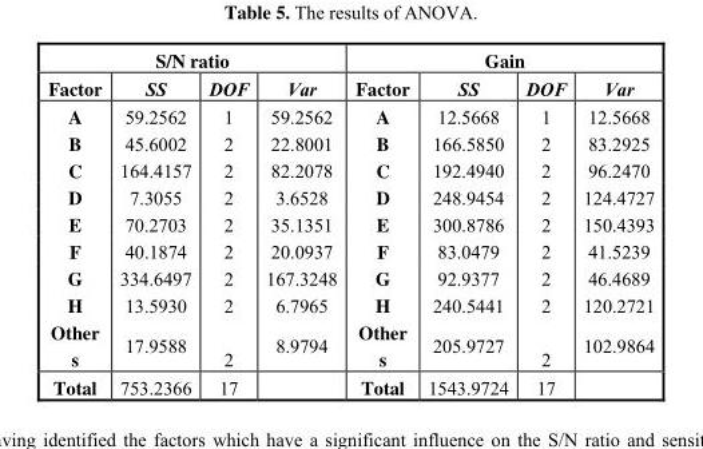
<table><thead><tr><td colspan="4">S/N ratio</td><td colspan="4">Gain</td></tr><tr><td>Factor</td><td>SS</td><td>DOF</td><td>Var</td><td>Factor</td><td>SS</td><td>DOF</td><td>Var</td></tr></thead><tbody><tr><td>A</td><td>59.2562</td><td>1</td><td>59.2562</td><td>A</td><td>12.5668</td><td>1</td><td>12.5668</td></tr><tr><td>B</td><td>45.6002</td><td>2</td><td>22.8001</td><td>B</td><td>166.5850</td><td>2</td><td>83.2925</td></tr><tr><td>C</td><td>164.4157</td><td>2</td><td>82.2078</td><td>C</td><td>192.4940</td><td>2</td><td>96.2470</td></tr><tr><td>D</td><td>7.3055</td><td>2</td><td>3.6528</td><td>D</td><td>248.9454</td><td>2</td><td>124.4727</td></tr><tr><td>E</td><td>70.2703</td><td>2</td><td>35.1351</td><td>E</td><td>300.8786</td><td>2</td><td>150.4393</td></tr><tr><td>F</td><td>40.1874</td><td>2</td><td>20.0937</td><td>F</td><td>83.0479</td><td>2</td><td>41.5239</td></tr><tr><td>G</td><td>334.6497</td><td>2</td><td>167.3248</td><td>G</td><td>92.9377</td><td>2</td><td>46.4689</td></tr><tr><td>H</td><td>13.5930</td><td>2</td><td>6.7965</td><td>H</td><td>240.5441</td><td>2</td><td>120.2721</td></tr><tr><td>Other s</td><td>17.9588</td><td>2</td><td>8.9794</td><td>Other s</td><td>205.9727</td><td>2</td><td>102.9864</td></tr><tr><td>Total</td><td>753.2366</td><td>17</td><td></td><td>Total</td><td>1543.9724</td><td>17</td><td></td></tr></tbody></table>